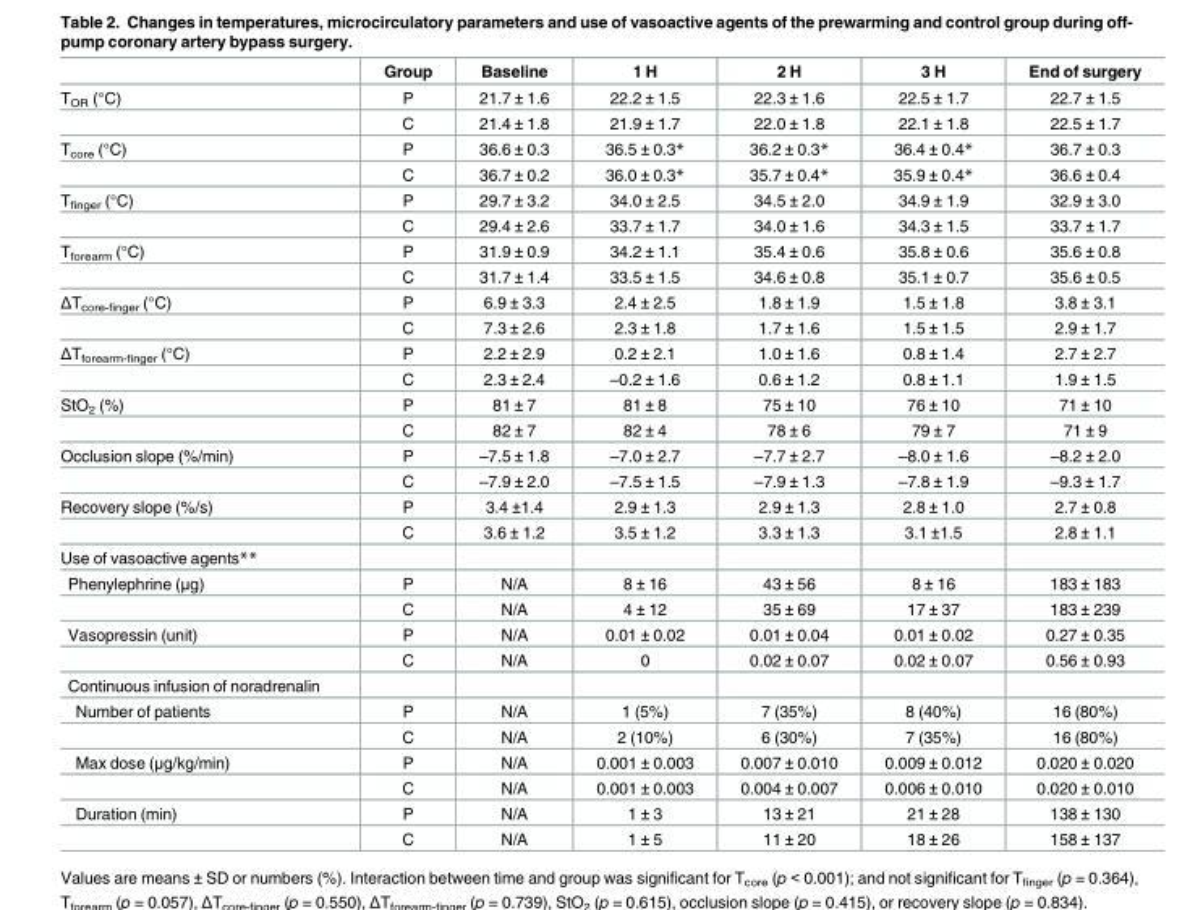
<table><thead><tr><td></td><td>Group</td><td>Baseline</td><td>1 H</td><td>2 H</td><td>3 H</td><td>End of surgery</td></tr></thead><tbody><tr><td rowspan="2">T<sub>OR</sub> (°C)</td><td>P</td><td>21.7 ± 1.6</td><td>22.2 ± 1.5</td><td>22.3 ± 1.6</td><td>22.5 ± 1.7</td><td>22.7 ± 1.5</td></tr><tr><td>C</td><td>21.4 ± 1.8</td><td>21.9 ± 1.7</td><td>22.0 ± 1.8</td><td>22.1 ± 1.8</td><td>22.5 ± 1.7</td></tr><tr><td rowspan="2">T<sub>core</sub> (°C)</td><td>P</td><td>36.6 ± 0.3</td><td>36.5 ± 0.3*</td><td>36.2 ± 0.3*</td><td>36.4 ± 0.4*</td><td>36.7 ± 0.3</td></tr><tr><td>C</td><td>36.7 ± 0.2</td><td>36.0 ± 0.3*</td><td>35.7 ± 0.4*</td><td>35.9 ± 0.4*</td><td>36.6 ± 0.4</td></tr><tr><td rowspan="2">T<sub>finger</sub> (°C)</td><td>P</td><td>29.7 ± 3.2</td><td>34.0 ± 2.5</td><td>34.5 ± 2.0</td><td>34.9 ± 1.9</td><td>32.9 ± 3.0</td></tr><tr><td>C</td><td>29.4 ± 2.6</td><td>33.7 ± 1.7</td><td>34.0 ± 1.6</td><td>34.3 ± 1.5</td><td>33.7 ± 1.7</td></tr><tr><td rowspan="2">T<sub>forearm</sub> (°C)</td><td>P</td><td>31.9 ± 0.9</td><td>34.2 ± 1.1</td><td>35.4 ± 0.6</td><td>35.8 ± 0.6</td><td>35.6 ± 0.8</td></tr><tr><td>C</td><td>31.7 ± 1.4</td><td>33.5 ± 1.5</td><td>34.6 ± 0.8</td><td>35.1 ± 0.7</td><td>35.6 ± 0.5</td></tr><tr><td rowspan="2">ΔT<sub>core-finger</sub> (°C)</td><td>P</td><td>6.9 ± 3.3</td><td>2.4 ± 2.5</td><td>1.8 ± 1.9</td><td>1.5 ± 1.8</td><td>3.8 ± 3.1</td></tr><tr><td>C</td><td>7.3 ± 2.6</td><td>2.3 ± 1.8</td><td>1.7 ± 1.6</td><td>1.5 ± 1.5</td><td>2.9 ± 1.7</td></tr><tr><td rowspan="2">ΔT<sub>forearm-finger</sub> (°C)</td><td>P</td><td>2.2 ± 2.9</td><td>0.2 ± 2.1</td><td>1.0 ± 1.6</td><td>0.8 ± 1.4</td><td>2.7 ± 2.7</td></tr><tr><td>C</td><td>2.3 ± 2.4</td><td>–0.2 ± 1.6</td><td>0.6 ± 1.2</td><td>0.8 ± 1.1</td><td>1.9 ± 1.5</td></tr><tr><td rowspan="2">StO<sub>2</sub> (%)</td><td>P</td><td>81 ± 7</td><td>81 ± 8</td><td>75 ± 10</td><td>76 ± 10</td><td>71 ± 10</td></tr><tr><td>C</td><td>82 ± 7</td><td>82 ± 4</td><td>78 ± 6</td><td>79 ± 7</td><td>71 ± 9</td></tr><tr><td rowspan="2">Occlusion slope (%/min)</td><td>P</td><td>–7.5 ± 1.8</td><td>–7.0 ± 2.7</td><td>–7.7 ± 2.7</td><td>–8.0 ± 1.6</td><td>–8.2 ± 2.0</td></tr><tr><td>C</td><td>–7.9 ± 2.0</td><td>–7.5 ± 1.5</td><td>–7.9 ± 1.3</td><td>–7.8 ± 1.9</td><td>–9.3 ± 1.7</td></tr><tr><td rowspan="2">Recovery slope (%/s)</td><td>P</td><td>3.4 ±1.4</td><td>2.9 ± 1.3</td><td>2.9 ± 1.3</td><td>2.8 ± 1.0</td><td>2.7 ± 0.8</td></tr><tr><td>C</td><td>3.6 ± 1.2</td><td>3.5 ± 1.2</td><td>3.3 ± 1.3</td><td>3.1 ±1.5</td><td>2.8 ± 1.1</td></tr><tr><td colspan="7">Use of vasoactive agents**</td></tr><tr><td rowspan="2">Phenylephrine (μg)</td><td>P</td><td>N/A</td><td>8 ± 16</td><td>43 ± 56</td><td>8 ± 16</td><td>183 ± 183</td></tr><tr><td>C</td><td>N/A</td><td>4 ± 12</td><td>35 ± 69</td><td>17 ± 37</td><td>183 ± 239</td></tr><tr><td rowspan="2">Vasopressin (unit)</td><td>P</td><td>N/A</td><td>0.01 ± 0.02</td><td>0.01 ± 0.04</td><td>0.01 ± 0.02</td><td>0.27 ± 0.35</td></tr><tr><td>C</td><td>N/A</td><td>0</td><td>0.02 ± 0.07</td><td>0.02 ± 0.07</td><td>0.56 ± 0.93</td></tr><tr><td colspan="7">Continuous infusion of noradrenalin</td></tr><tr><td rowspan="2">Number of patients</td><td>P</td><td>N/A</td><td>1 (5%)</td><td>7 (35%)</td><td>8 (40%)</td><td>16 (80%)</td></tr><tr><td>C</td><td>N/A</td><td>2 (10%)</td><td>6 (30%)</td><td>7 (35%)</td><td>16 (80%)</td></tr><tr><td rowspan="2">Max dose (μg/kg/min)</td><td>P</td><td>N/A</td><td>0.001 ± 0.003</td><td>0.007 ± 0.010</td><td>0.009 ± 0.012</td><td>0.020 ± 0.020</td></tr><tr><td>C</td><td>N/A</td><td>0.001 ± 0.003</td><td>0.004 ± 0.007</td><td>0.006 ± 0.010</td><td>0.020 ± 0.010</td></tr><tr><td rowspan="2">Duration (min)</td><td>P</td><td>N/A</td><td>1 ± 3</td><td>13 ± 21</td><td>21 ± 28</td><td>138 ± 130</td></tr><tr><td>C</td><td>N/A</td><td>1 ± 5</td><td>11 ± 20</td><td>18 ± 26</td><td>158 ± 137</td></tr></tbody></table>